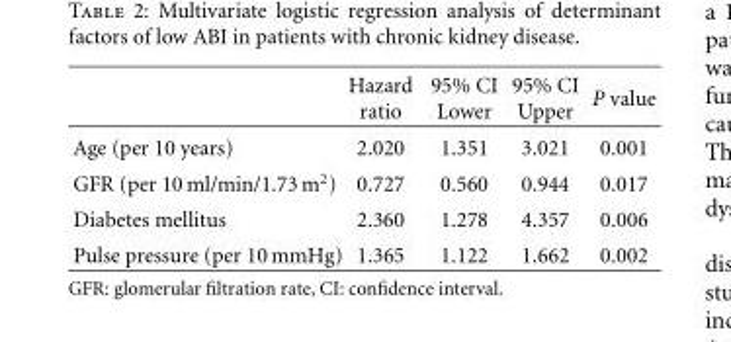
<table><thead><tr><td></td><td>Hazard ratio</td><td>95% CI Lower</td><td>95% CI Upper</td><td>P value</td></tr></thead><tbody><tr><td>Age (per 10 years)</td><td>2.020</td><td>1.351</td><td>3.021</td><td>0.001</td></tr><tr><td>GFR (per 10 ml/min/1.73 m<sup>2</sup>)</td><td>0.727</td><td>0.560</td><td>0.944</td><td>0.017</td></tr><tr><td>Diabetes mellitus</td><td>2.360</td><td>1.278</td><td>4.357</td><td>0.006</td></tr><tr><td>Pulse pressure (per 10 mmHg)</td><td>1.365</td><td>1.122</td><td>1.662</td><td>0.002</td></tr></tbody></table>